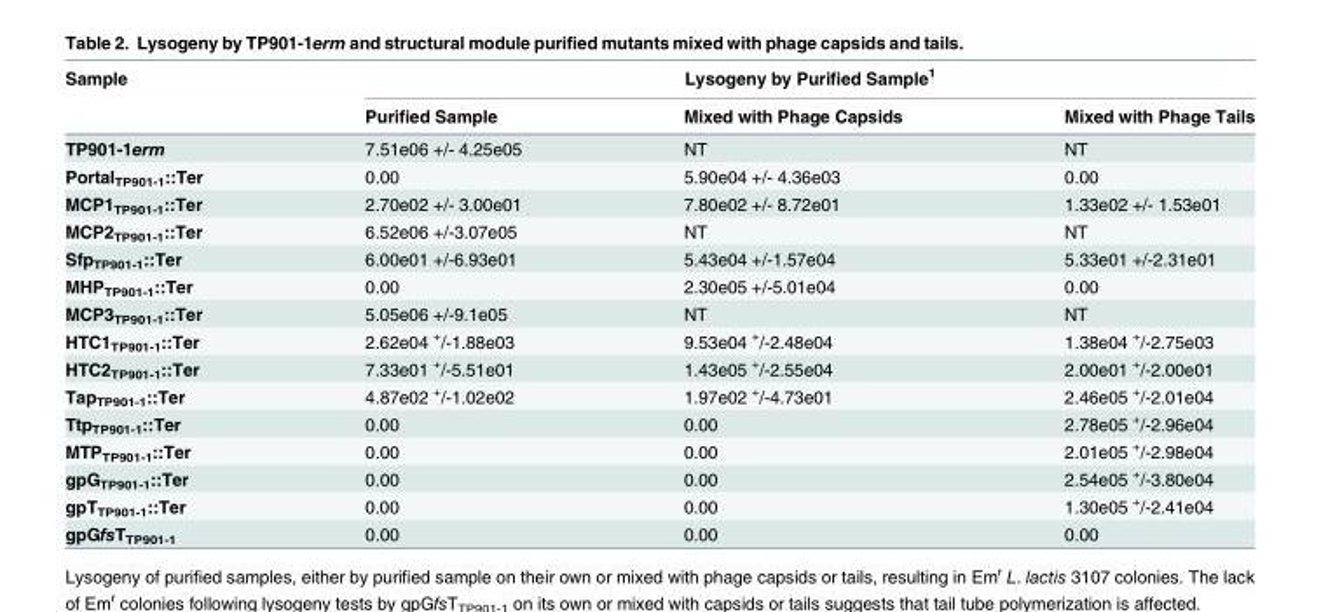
<table><thead><tr><td rowspan="2">Sample</td><td colspan="3">Lysogeny by Purified Sample<sup>1</sup></td></tr><tr><td>Purified Sample</td><td>Mixed with Phage Capsids</td><td>Mixed with Phage Tails</td></tr></thead><tbody><tr><td>TP901-1erm</td><td>7.51e06 +/- 4.25e05</td><td>NT</td><td>NT</td></tr><tr><td>Portal<sub>TP901-1</sub>::Ter</td><td>0.00</td><td>5.90e04 +/- 4.36e03</td><td>0.00</td></tr><tr><td>MCP1<sub>TP901-1</sub>::Ter</td><td>2.70e02 +/- 3.00e01</td><td>7.80e02 +/- 8.72e01</td><td>1.33e02 +/- 1.53e01</td></tr><tr><td>MCP2<sub>TP901-1</sub>::Ter</td><td>6.52e06 +/-3.07e05</td><td>NT</td><td>NT</td></tr><tr><td>Sfp<sub>TP901-1</sub>::Ter</td><td>6.00e01 +/-6.93e01</td><td>5.43e04 +/-1.57e04</td><td>5.33e01 +/-2.31e01</td></tr><tr><td>MHP<sub>TP901-1</sub>::Ter</td><td>0.00</td><td>2.30e05 +/-5.01e04</td><td>0.00</td></tr><tr><td>MCP3<sub>TP901-1</sub>::Ter</td><td>5.05e06 +/-9.1e05</td><td>NT</td><td>NT</td></tr><tr><td>HTC1<sub>TP901-1</sub>::Ter</td><td>2.62e04 <sup>+</sup>/-1.88e03</td><td>9.53e04 <sup>+</sup>/-2.48e04</td><td>1.38e04 <sup>+</sup>/-2.75e03</td></tr><tr><td>HTC2<sub>TP901-1</sub>::Ter</td><td>7.33e01 <sup>+</sup>/-5.51e01</td><td>1.43e05 <sup>+</sup>/-2.55e04</td><td>2.00e01 <sup>+</sup>/-2.00e01</td></tr><tr><td>Tap<sub>TP901-1</sub>::Ter</td><td>4.87e02 <sup>+</sup>/-1.02e02</td><td>1.97e02 <sup>+</sup>/-4.73e01</td><td>2.46e05 <sup>+</sup>/-2.01e04</td></tr><tr><td>Ttp<sub>TP901-1</sub>::Ter</td><td>0.00</td><td>0.00</td><td>2.78e05 <sup>+</sup>/-2.96e04</td></tr><tr><td>MTP<sub>TP901-1</sub>::Ter</td><td>0.00</td><td>0.00</td><td>2.01e05 <sup>+</sup>/-2.98e04</td></tr><tr><td>gpG<sub>TP901-1</sub>::Ter</td><td>0.00</td><td>0.00</td><td>2.54e05 <sup>+</sup>/-3.80e04</td></tr><tr><td>gpT<sub>TP901-1</sub>::Ter</td><td>0.00</td><td>0.00</td><td>1.30e05 <sup>+</sup>/-2.41e04</td></tr><tr><td>gpGfsT<sub>TP901-1</sub></td><td>0.00</td><td>0.00</td><td>0.00</td></tr></tbody></table>